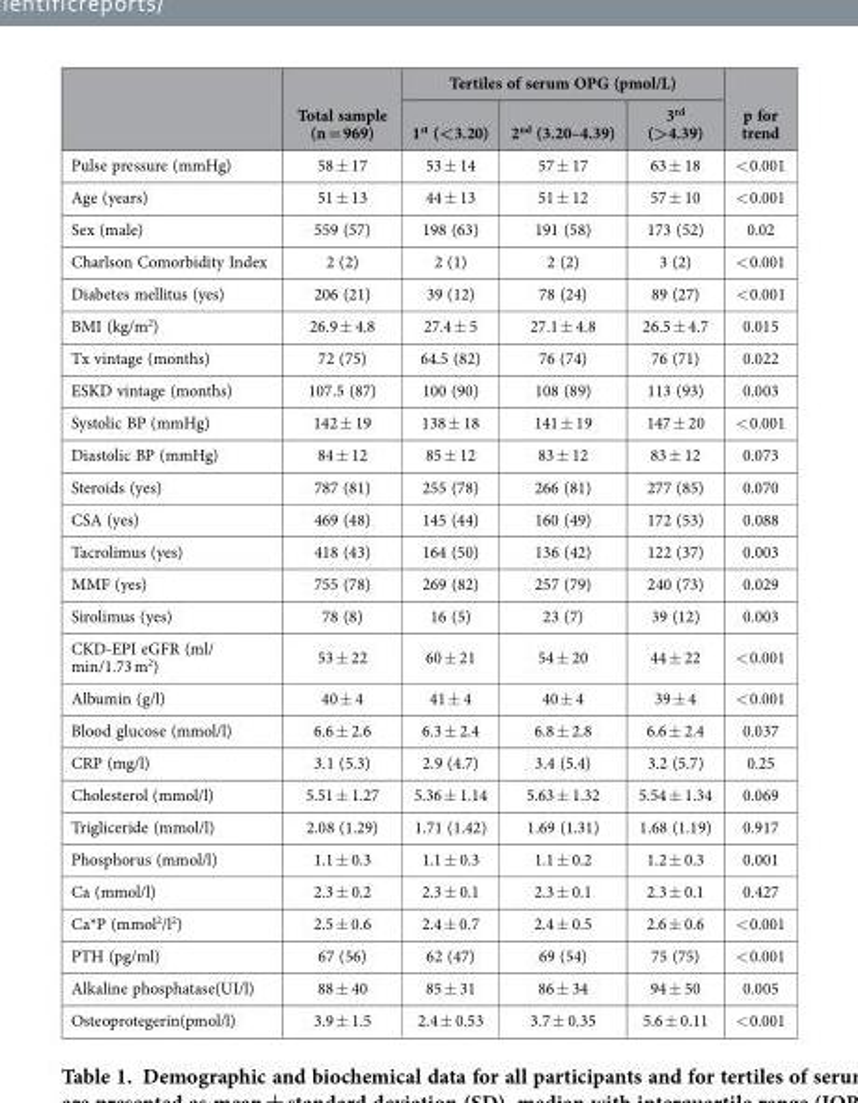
<table><thead><tr><td rowspan="2"></td><td rowspan="2">Total sample (n = 969)</td><td colspan="3">Tertiles of serum OPG (pmol/L)</td><td rowspan="2">p for trend</td></tr><tr><td>1<sup>st</sup> (&lt;3.20)</td><td>2<sup>nd</sup> (3.20–4.39)</td><td>3<sup>rd</sup> (&gt;4.39)</td></tr></thead><tbody><tr><td>Pulse pressure (mmHg)</td><td>58 ± 17</td><td>53 ± 14</td><td>57 ± 17</td><td>63 ± 18</td><td>&lt; 0.001</td></tr><tr><td>Age (years)</td><td>51 ± 13</td><td>44 ± 13</td><td>51 ± 12</td><td>57 ± 10</td><td>&lt; 0.001</td></tr><tr><td>Sex (male)</td><td>559 (57)</td><td>198 (63)</td><td>191 (58)</td><td>173 (52)</td><td>0.02</td></tr><tr><td>Charlson Comorbidity Index</td><td>2 (2)</td><td>2 (1)</td><td>2 (2)</td><td>3 (2)</td><td>&lt; 0.001</td></tr><tr><td>Diabetes mellitus (yes)</td><td>206 (21)</td><td>39 (12)</td><td>78 (24)</td><td>89 (27)</td><td>&lt; 0.001</td></tr><tr><td>BMI (kg/m<sup>2</sup>)</td><td>26.9 ± 4.8</td><td>27.4 ± 5</td><td>27.1 ± 4.8</td><td>26.5 ± 4.7</td><td>0.015</td></tr><tr><td>Tx vintage (months)</td><td>72 (75)</td><td>64.5 (82)</td><td>76 (74)</td><td>76 (71)</td><td>0.022</td></tr><tr><td>ESKD vintage (months)</td><td>107.5 (87)</td><td>100 (90)</td><td>108 (89)</td><td>113 (93)</td><td>0.003</td></tr><tr><td>Systolic BP (mmHg)</td><td>142 ± 19</td><td>138 ± 18</td><td>141 ± 19</td><td>147 ± 20</td><td>&lt; 0.001</td></tr><tr><td>Diastolic BP (mmHg)</td><td>84 ± 12</td><td>85 ± 12</td><td>83 ± 12</td><td>83 ± 12</td><td>0.073</td></tr><tr><td>Steroids (yes)</td><td>787 (81)</td><td>255 (78)</td><td>266 (81)</td><td>277 (85)</td><td>0.070</td></tr><tr><td>CSA (yes)</td><td>469 (48)</td><td>145 (44)</td><td>160 (49)</td><td>172 (53)</td><td>0.088</td></tr><tr><td>Tacrolimus (yes)</td><td>418 (43)</td><td>164 (50)</td><td>136 (42)</td><td>122 (37)</td><td>0.003</td></tr><tr><td>MMF (yes)</td><td>755 (78)</td><td>269 (82)</td><td>257 (79)</td><td>240 (73)</td><td>0.029</td></tr><tr><td>Sirolimus (yes)</td><td>78 (8)</td><td>16 (5)</td><td>23 (7)</td><td>39 (12)</td><td>0.003</td></tr><tr><td>CKD-EPI eGFR (ml/ min/1.73 m<sup>2</sup>)</td><td>53 ± 22</td><td>60 ± 21</td><td>54 ± 20</td><td>44 ± 22</td><td>&lt; 0.001</td></tr><tr><td>Albumin (g/l)</td><td>40 ± 4</td><td>41 ± 4</td><td>40 ± 4</td><td>39 ± 4</td><td>&lt; 0.001</td></tr><tr><td>Blood glucose (mmol/l)</td><td>6.6 ± 2.6</td><td>6.3 ± 2.4</td><td>6.8 ± 2.8</td><td>6.6 ± 2.4</td><td>0.037</td></tr><tr><td>CRP (mg/l)</td><td>3.1 (5.3)</td><td>2.9 (4.7)</td><td>3.4 (5.4)</td><td>3.2 (5.7)</td><td>0.25</td></tr><tr><td>Cholesterol (mmol/l)</td><td>5.51 ± 1.27</td><td>5.36 ± 1.14</td><td>5.63 ± 1.32</td><td>5.54 ± 1.34</td><td>0.069</td></tr><tr><td>Trigliceride (mmol/l)</td><td>2.08 (1.29)</td><td>1.71 (1.42)</td><td>1.69 (1.31)</td><td>1.68 (1.19)</td><td>0.917</td></tr><tr><td>Phosphorus (mmol/l)</td><td>1.1 ± 0.3</td><td>1.1 ± 0.3</td><td>1.1 ± 0.2</td><td>1.2 ± 0.3</td><td>0.001</td></tr><tr><td>Ca (mmol/l)</td><td>2.3 ± 0.2</td><td>2.3 ± 0.1</td><td>2.3 ± 0.1</td><td>2.3 ± 0.1</td><td>0.427</td></tr><tr><td>Ca*P (mmol<sup>2</sup>/l<sup>2</sup>)</td><td>2.5 ± 0.6</td><td>2.4 ± 0.7</td><td>2.4 ± 0.5</td><td>2.6 ± 0.6</td><td>&lt; 0.001</td></tr><tr><td>PTH (pg/ml)</td><td>67 (56)</td><td>62 (47)</td><td>69 (54)</td><td>75 (75)</td><td>&lt; 0.001</td></tr><tr><td>Alkaline phosphatase(UI/l)</td><td>88 ± 40</td><td>85 ± 31</td><td>86 ± 34</td><td>94 ± 50</td><td>0.005</td></tr><tr><td>Osteoprotegerin(pmol/l)</td><td>3.9 ± 1.5</td><td>2.4 ± 0.53</td><td>3.7 ± 0.35</td><td>5.6 ± 0.11</td><td>&lt; 0.001</td></tr></tbody></table>